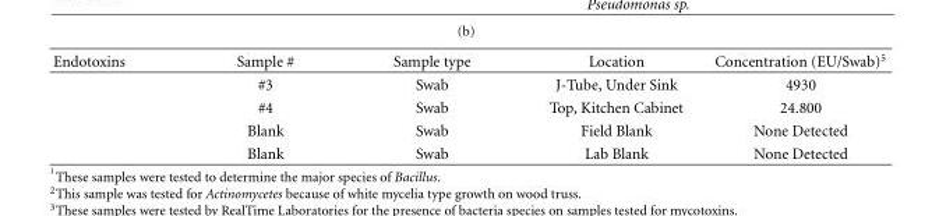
<table><thead><tr><td>Endotoxins</td><td>Sample #</td><td>Sample type</td><td>Location</td><td>Concentration (EU/Swab)<sup>5</sup></td></tr></thead><tbody><tr><td></td><td>#3</td><td>Swab</td><td>J-Tube, Under Sink</td><td>4930</td></tr><tr><td></td><td>#4</td><td>Swab</td><td>Top, Kitchen Cabinet</td><td>24.800</td></tr><tr><td></td><td>Blank</td><td>Swab</td><td>Field Blank</td><td>None Detected</td></tr><tr><td></td><td>Blank</td><td>Swab</td><td>Lab Blank</td><td>None Detected</td></tr></tbody></table>